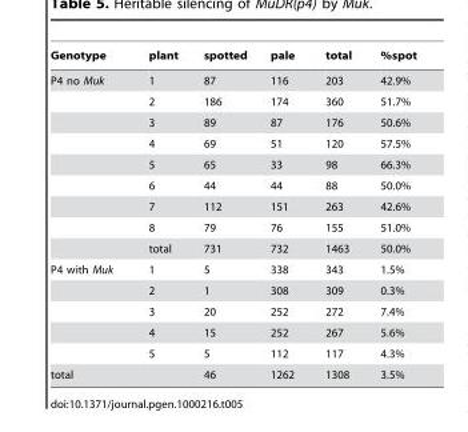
<table><thead><tr><td>Genotype</td><td>plant</td><td>spotted</td><td>pale</td><td>total</td><td>%spot</td></tr></thead><tbody><tr><td rowspan="9">P4 no Muk</td><td>1</td><td>87</td><td>116</td><td>203</td><td>42.9%</td></tr><tr><td>2</td><td>186</td><td>174</td><td>360</td><td>51.7%</td></tr><tr><td>3</td><td>89</td><td>87</td><td>176</td><td>50.6%</td></tr><tr><td>4</td><td>69</td><td>51</td><td>120</td><td>57.5%</td></tr><tr><td>5</td><td>65</td><td>33</td><td>98</td><td>66.3%</td></tr><tr><td>6</td><td>44</td><td>44</td><td>88</td><td>50.0%</td></tr><tr><td>7</td><td>112</td><td>151</td><td>263</td><td>42.6%</td></tr><tr><td>8</td><td>79</td><td>76</td><td>155</td><td>51.0%</td></tr><tr><td>total</td><td>731</td><td>732</td><td>1463</td><td>50.0%</td></tr><tr><td rowspan="5">P4 with Muk</td><td>1</td><td>5</td><td>338</td><td>343</td><td>1.5%</td></tr><tr><td>2</td><td>1</td><td>308</td><td>309</td><td>0.3%</td></tr><tr><td>3</td><td>20</td><td>252</td><td>272</td><td>7.4%</td></tr><tr><td>4</td><td>15</td><td>252</td><td>267</td><td>5.6%</td></tr><tr><td>5</td><td>5</td><td>112</td><td>117</td><td>4.3%</td></tr><tr><td>total</td><td></td><td>46</td><td>1262</td><td>1308</td><td>3.5%</td></tr></tbody></table>